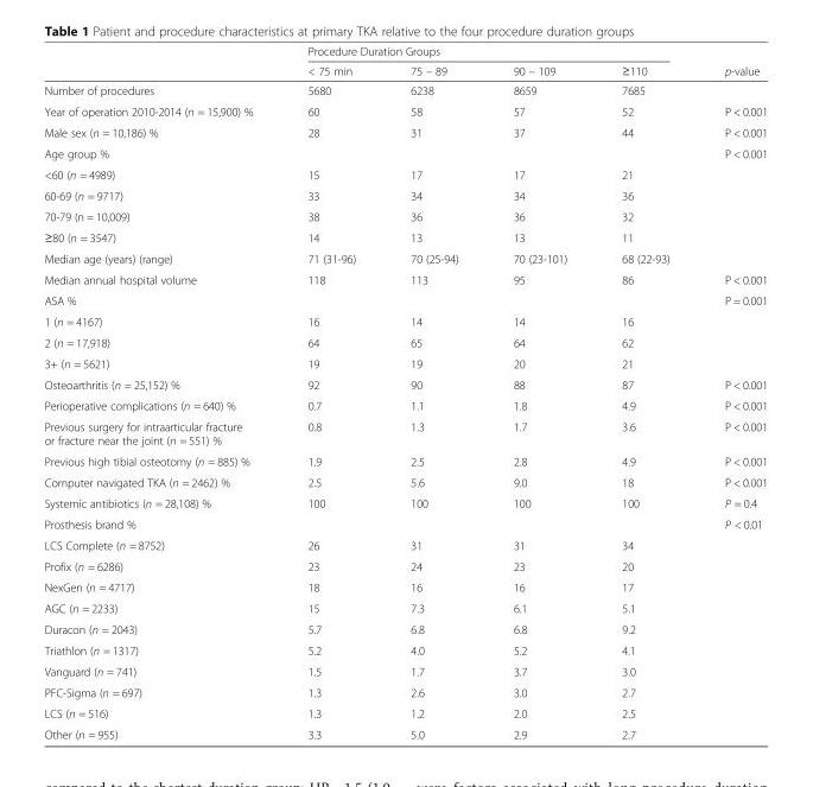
<table><thead><tr><td rowspan="2"></td><td colspan="4">Procedure Duration Groups</td><td rowspan="2">p-value</td></tr><tr><td>&lt; 75 min</td><td>75 – 89</td><td>90 – 109</td><td>≥110</td></tr></thead><tbody><tr><td>Number of procedures</td><td>5680</td><td>6238</td><td>8659</td><td>7685</td><td></td></tr><tr><td>Year of operation 2010-2014 (n = 15,900) %</td><td>60</td><td>58</td><td>57</td><td>52</td><td>P &lt; 0.001</td></tr><tr><td>Male sex (n = 10,186) %</td><td>28</td><td>31</td><td>37</td><td>44</td><td>P &lt; 0.001</td></tr><tr><td>Age group %</td><td></td><td></td><td></td><td></td><td>P &lt; 0.001</td></tr><tr><td>&lt;60 (n = 4989)</td><td>15</td><td>17</td><td>17</td><td>21</td><td></td></tr><tr><td>60-69 (n = 9717)</td><td>33</td><td>34</td><td>34</td><td>36</td><td></td></tr><tr><td>70-79 (n = 10,009)</td><td>38</td><td>36</td><td>36</td><td>32</td><td></td></tr><tr><td>≥80 (n = 3547)</td><td>14</td><td>13</td><td>13</td><td>11</td><td></td></tr><tr><td>Median age (years) (range)</td><td>71 (31-96)</td><td>70 (25-94)</td><td>70 (23-101)</td><td>68 (22-93)</td><td></td></tr><tr><td>Median annual hospital volume</td><td>118</td><td>113</td><td>95</td><td>86</td><td>P &lt; 0.001</td></tr><tr><td>ASA %</td><td></td><td></td><td></td><td></td><td>P = 0.001</td></tr><tr><td>1 (n = 4167)</td><td>16</td><td>14</td><td>14</td><td>16</td><td></td></tr><tr><td>2 (n = 17,918)</td><td>64</td><td>65</td><td>64</td><td>62</td><td></td></tr><tr><td>3+ (n = 5621)</td><td>19</td><td>19</td><td>20</td><td>21</td><td></td></tr><tr><td>Osteoarthritis (n = 25,152) %</td><td>92</td><td>90</td><td>88</td><td>87</td><td>P &lt; 0.001</td></tr><tr><td>Perioperative complications (n = 640) %</td><td>0.7</td><td>1.1</td><td>1.8</td><td>4.9</td><td>P &lt; 0.001</td></tr><tr><td>Previous surgery for intraarticular fracture or fracture near the joint (n = 551) %</td><td>0.8</td><td>1.3</td><td>1.7</td><td>3.6</td><td>P &lt; 0.001</td></tr><tr><td>Previous high tibial osteotomy (n = 885) %</td><td>1.9</td><td>2.5</td><td>2.8</td><td>4.9</td><td>P &lt; 0.001</td></tr><tr><td>Computer navigated TKA (n = 2462) %</td><td>2.5</td><td>5.6</td><td>9.0</td><td>18</td><td>P &lt; 0.001</td></tr><tr><td>Systemic antibiotics (n = 28,108) %</td><td>100</td><td>100</td><td>100</td><td>100</td><td>P = 0.4</td></tr><tr><td>Prosthesis brand %</td><td></td><td></td><td></td><td></td><td>P &lt; 0.01</td></tr><tr><td>LCS Complete (n = 8752)</td><td>26</td><td>31</td><td>31</td><td>34</td><td></td></tr><tr><td>Profix (n = 6286)</td><td>23</td><td>24</td><td>23</td><td>20</td><td></td></tr><tr><td>NexGen (n = 4717)</td><td>18</td><td>16</td><td>16</td><td>17</td><td></td></tr><tr><td>AGC (n = 2233)</td><td>15</td><td>7.3</td><td>6.1</td><td>5.1</td><td></td></tr><tr><td>Duracon (n = 2043)</td><td>5.7</td><td>6.8</td><td>6.8</td><td>9.2</td><td></td></tr><tr><td>Triathlon (n = 1317)</td><td>5.2</td><td>4.0</td><td>5.2</td><td>4.1</td><td></td></tr><tr><td>Vanguard (n = 741)</td><td>1.5</td><td>1.7</td><td>3.7</td><td>3.0</td><td></td></tr><tr><td>PFC-Sigma (n = 697)</td><td>1.3</td><td>2.6</td><td>3.0</td><td>2.7</td><td></td></tr><tr><td>LCS (n = 516)</td><td>1.3</td><td>1.2</td><td>2.0</td><td>2.5</td><td></td></tr><tr><td>Other (n = 955)</td><td>3.3</td><td>5.0</td><td>2.9</td><td>2.7</td><td></td></tr></tbody></table>